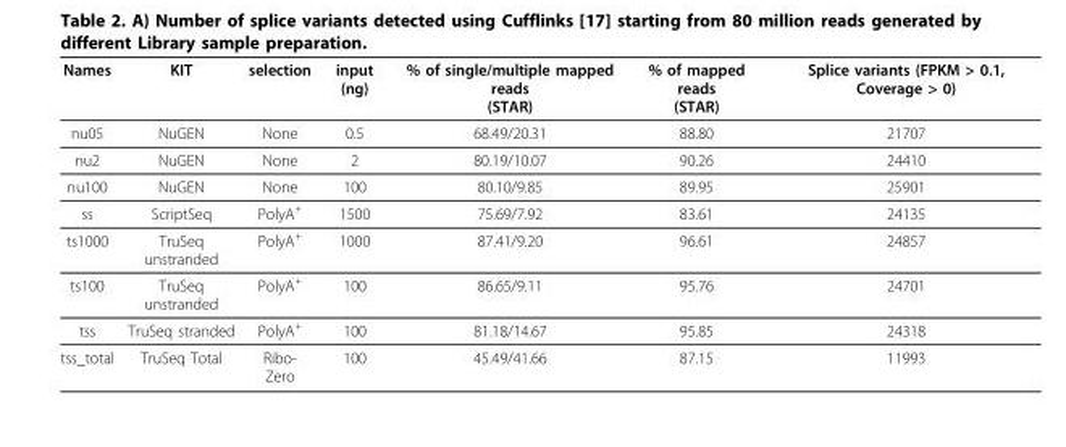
<table><thead><tr><td>Names</td><td>KIT</td><td>selection</td><td>input (ng)</td><td>% of single/multiple mapped reads (STAR)</td><td>% of mapped reads (STAR)</td><td>Splice variants (FPKM &gt; 0.1, Coverage &gt; 0)</td></tr></thead><tbody><tr><td>nu05</td><td>NuGEN</td><td>None</td><td>0.5</td><td>68.49/20.31</td><td>88.80</td><td>21707</td></tr><tr><td>nu2</td><td>NuGEN</td><td>None</td><td>2</td><td>80.19/10.07</td><td>90.26</td><td>24410</td></tr><tr><td>nu100</td><td>NuGEN</td><td>None</td><td>100</td><td>80.10/9.85</td><td>89.95</td><td>25901</td></tr><tr><td>ss</td><td>ScriptSeq</td><td>PolyA<sup>+</sup></td><td>1500</td><td>75.69/7.92</td><td>83.61</td><td>24135</td></tr><tr><td>ts1000</td><td>TruSeq unstranded</td><td>PolyA<sup>+</sup></td><td>1000</td><td>87.41/9.20</td><td>96.61</td><td>24857</td></tr><tr><td>ts100</td><td>TruSeq unstranded</td><td>PolyA<sup>+</sup></td><td>100</td><td>86.65/9.11</td><td>95.76</td><td>24701</td></tr><tr><td>tss</td><td>TruSeq stranded</td><td>PolyA<sup>+</sup></td><td>100</td><td>81.18/14.67</td><td>95.85</td><td>24318</td></tr><tr><td>tss_total</td><td>TruSeq Total</td><td>Ribo- Zero</td><td>100</td><td>45.49/41.66</td><td>87.15</td><td>11993</td></tr></tbody></table>